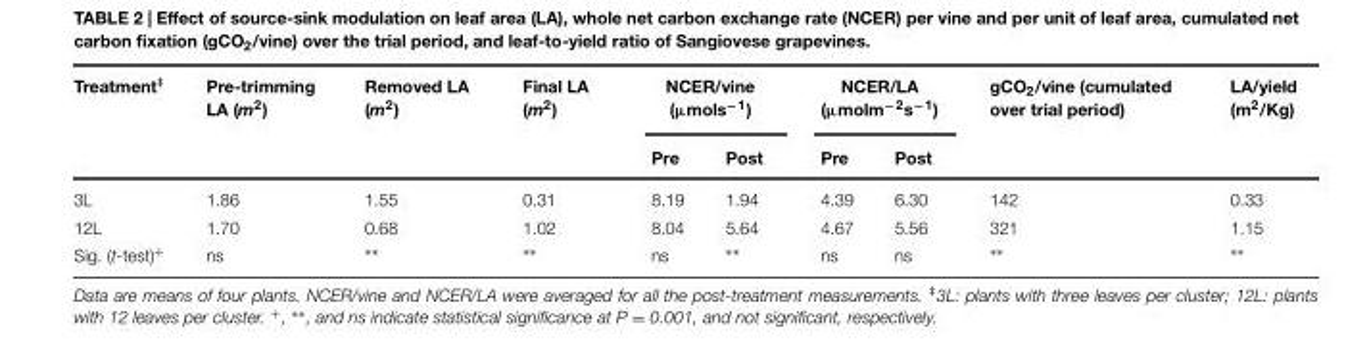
<table><thead><tr><td rowspan="2">Treatment<sup>‡</sup></td><td rowspan="2">Pre-trimming LA (m<sup>2</sup>)</td><td rowspan="2">Removed LA (m<sup>2</sup>)</td><td rowspan="2">Final LA (m<sup>2</sup>)</td><td colspan="2">NCER/vine (µmols<sup>−1</sup>)</td><td colspan="2">NCER/LA (µmolm<sup>−2</sup>s<sup>−1</sup>)</td><td rowspan="2">gCO<sub>2</sub>/vine (cumulated over trial period)</td><td rowspan="2">LA/yield (m<sup>2</sup>/Kg)</td></tr><tr><td>Pre</td><td>Post</td><td>Pre</td><td>Post</td></tr></thead><tbody><tr><td>3L</td><td>1.86</td><td>1.55</td><td>0.31</td><td>8.19</td><td>1.94</td><td>4.39</td><td>6.30</td><td>142</td><td>0.33</td></tr><tr><td>12L</td><td>1.70</td><td>0.68</td><td>1.02</td><td>8.04</td><td>5.64</td><td>4.67</td><td>5.56</td><td>321</td><td>1.15</td></tr><tr><td>Sig. (t-test)<sup>+</sup></td><td>ns</td><td>∗∗</td><td>∗∗</td><td>ns</td><td>∗∗</td><td>ns</td><td>ns</td><td>∗∗</td><td>∗∗</td></tr></tbody></table>